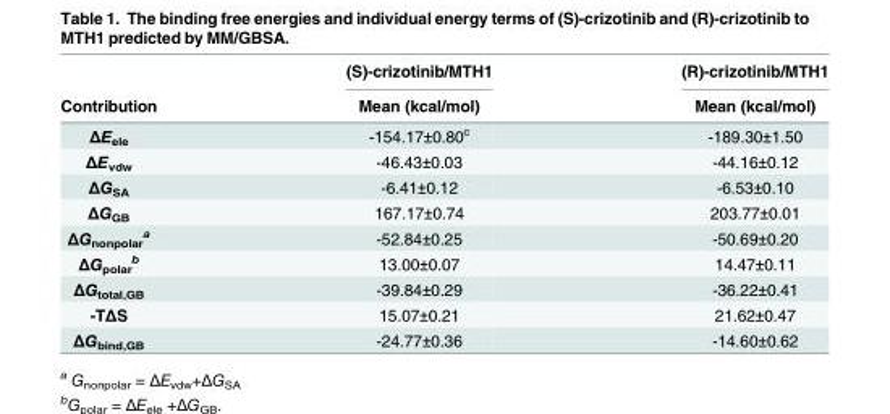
<table><thead><tr><td rowspan="2">Contribution</td><td rowspan="2">(S)-crizotinib/MTH1 Mean (kcal/mol)</td><td rowspan="2">(R)-crizotinib/MTH1 Mean (kcal/mol)</td></tr><tr></tr></thead><tbody><tr><td>ΔE<sub>ele</sub></td><td>-154.17±0.80<sup>c</sup></td><td>-189.30±1.50</td></tr><tr><td>ΔE<sub>vdw</sub></td><td>-46.43±0.03</td><td>-44.16±0.12</td></tr><tr><td>ΔG<sub>SA</sub></td><td>-6.41±0.12</td><td>-6.53±0.10</td></tr><tr><td>ΔG<sub>GB</sub></td><td>167.17±0.74</td><td>203.77±0.01</td></tr><tr><td>ΔG<sub>nonpolar</sub> <sup>a</sup></td><td>-52.84±0.25</td><td>-50.69±0.20</td></tr><tr><td>ΔG<sub>polar</sub> <sup>b</sup></td><td>13.00±0.07</td><td>14.47±0.11</td></tr><tr><td>ΔG<sub>total,GB</sub></td><td>-39.84±0.29</td><td>-36.22±0.41</td></tr><tr><td>-TΔS</td><td>15.07±0.21</td><td>21.62±0.47</td></tr><tr><td>ΔG<sub>bind,GB</sub></td><td>-24.77±0.36</td><td>-14.60±0.62</td></tr></tbody></table>